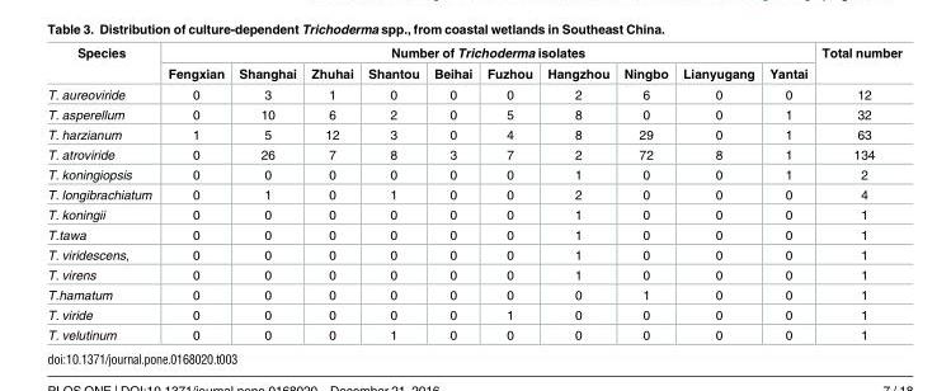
<table><thead><tr><td rowspan="2">Species</td><td colspan="10">Number of Trichoderma isolates</td><td rowspan="2">Total number</td></tr><tr><td>Fengxian</td><td>Shanghai</td><td>Zhuhai</td><td>Shantou</td><td>Beihai</td><td>Fuzhou</td><td>Hangzhou</td><td>Ningbo</td><td>Lianyugang</td><td>Yantai</td></tr></thead><tbody><tr><td>T. aureoviride</td><td>0</td><td>3</td><td>1</td><td>0</td><td>0</td><td>0</td><td>2</td><td>6</td><td>0</td><td>0</td><td>12</td></tr><tr><td>T. asperellum</td><td>0</td><td>10</td><td>6</td><td>2</td><td>0</td><td>5</td><td>8</td><td>0</td><td>0</td><td>1</td><td>32</td></tr><tr><td>T. harzianum</td><td>1</td><td>5</td><td>12</td><td>3</td><td>0</td><td>4</td><td>8</td><td>29</td><td>0</td><td>1</td><td>63</td></tr><tr><td>T. atroviride</td><td>0</td><td>26</td><td>7</td><td>8</td><td>3</td><td>7</td><td>2</td><td>72</td><td>8</td><td>1</td><td>134</td></tr><tr><td>T. koningiopsis</td><td>0</td><td>0</td><td>0</td><td>0</td><td>0</td><td>0</td><td>1</td><td>0</td><td>0</td><td>1</td><td>2</td></tr><tr><td>T. longibrachiatum</td><td>0</td><td>1</td><td>0</td><td>1</td><td>0</td><td>0</td><td>2</td><td>0</td><td>0</td><td>0</td><td>4</td></tr><tr><td>T. koningii</td><td>0</td><td>0</td><td>0</td><td>0</td><td>0</td><td>0</td><td>1</td><td>0</td><td>0</td><td>0</td><td>1</td></tr><tr><td>T.tawa</td><td>0</td><td>0</td><td>0</td><td>0</td><td>0</td><td>0</td><td>1</td><td>0</td><td>0</td><td>0</td><td>1</td></tr><tr><td>T. viridescens,</td><td>0</td><td>0</td><td>0</td><td>0</td><td>0</td><td>0</td><td>1</td><td>0</td><td>0</td><td>0</td><td>1</td></tr><tr><td>T. virens</td><td>0</td><td>0</td><td>0</td><td>0</td><td>0</td><td>0</td><td>1</td><td>0</td><td>0</td><td>0</td><td>1</td></tr><tr><td>T.hamatum</td><td>0</td><td>0</td><td>0</td><td>0</td><td>0</td><td>0</td><td>0</td><td>1</td><td>0</td><td>0</td><td>1</td></tr><tr><td>T. viride</td><td>0</td><td>0</td><td>0</td><td>0</td><td>0</td><td>1</td><td>0</td><td>0</td><td>0</td><td>0</td><td>1</td></tr><tr><td>T. velutinum</td><td>0</td><td>0</td><td>0</td><td>1</td><td>0</td><td>0</td><td>0</td><td>0</td><td>0</td><td>0</td><td>1</td></tr></tbody></table>